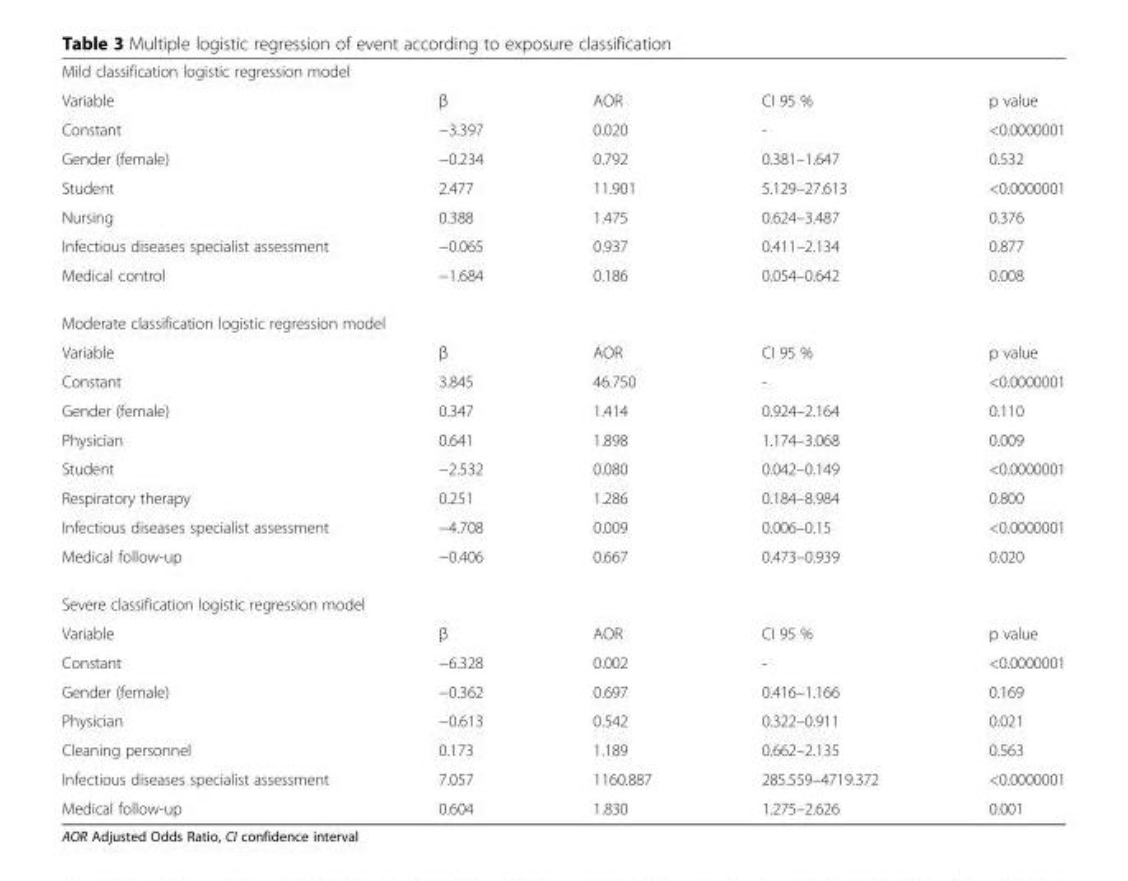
<table><tbody><tr><td colspan="5">Mild classification logistic regression model</td></tr><tr><td>Variable</td><td>β</td><td>AOR</td><td>CI 95 %</td><td>p value</td></tr><tr><td>Constant</td><td>−3.397</td><td>0.020</td><td>-</td><td>&lt;0.0000001</td></tr><tr><td>Gender (female)</td><td>−0.234</td><td>0.792</td><td>0.381–1.647</td><td>0.532</td></tr><tr><td>Student</td><td>2.477</td><td>11.901</td><td>5.129–27.613</td><td>&lt;0.0000001</td></tr><tr><td>Nursing</td><td>0.388</td><td>1.475</td><td>0.624–3.487</td><td>0.376</td></tr><tr><td>Infectious diseases specialist assessment</td><td>−0.065</td><td>0.937</td><td>0.411–2.134</td><td>0.877</td></tr><tr><td>Medical control</td><td>−1.684</td><td>0.186</td><td>0.054–0.642</td><td>0.008</td></tr><tr><td colspan="5">Moderate classification logistic regression model</td></tr><tr><td>Variable</td><td>β</td><td>AOR</td><td>CI 95 %</td><td>p value</td></tr><tr><td>Constant</td><td>3.845</td><td>46.750</td><td>-</td><td>&lt;0.0000001</td></tr><tr><td>Gender (female)</td><td>0.347</td><td>1.414</td><td>0.924–2.164</td><td>0.110</td></tr><tr><td>Physician</td><td>0.641</td><td>1.898</td><td>1.174–3.068</td><td>0.009</td></tr><tr><td>Student</td><td>−2.532</td><td>0.080</td><td>0.042–0.149</td><td>&lt;0.0000001</td></tr><tr><td>Respiratory therapy</td><td>0.251</td><td>1.286</td><td>0.184–8.984</td><td>0.800</td></tr><tr><td>Infectious diseases specialist assessment</td><td>−4.708</td><td>0.009</td><td>0.006–0.15</td><td>&lt;0.0000001</td></tr><tr><td>Medical follow-up</td><td>−0.406</td><td>0.667</td><td>0.473–0.939</td><td>0.020</td></tr><tr><td colspan="5">Severe classification logistic regression model</td></tr><tr><td>Variable</td><td>β</td><td>AOR</td><td>CI 95 %</td><td>p value</td></tr><tr><td>Constant</td><td>−6.328</td><td>0.002</td><td>-</td><td>&lt;0.0000001</td></tr><tr><td>Gender (female)</td><td>−0.362</td><td>0.697</td><td>0.416–1.166</td><td>0.169</td></tr><tr><td>Physician</td><td>−0.613</td><td>0.542</td><td>0.322–0.911</td><td>0.021</td></tr><tr><td>Cleaning personnel</td><td>0.173</td><td>1.189</td><td>0.662–2.135</td><td>0.563</td></tr><tr><td>Infectious diseases specialist assessment</td><td>7.057</td><td>1160.887</td><td>285.559–4719.372</td><td>&lt;0.0000001</td></tr><tr><td>Medical follow-up</td><td>0.604</td><td>1.830</td><td>1.275–2.626</td><td>0.001</td></tr></tbody></table>